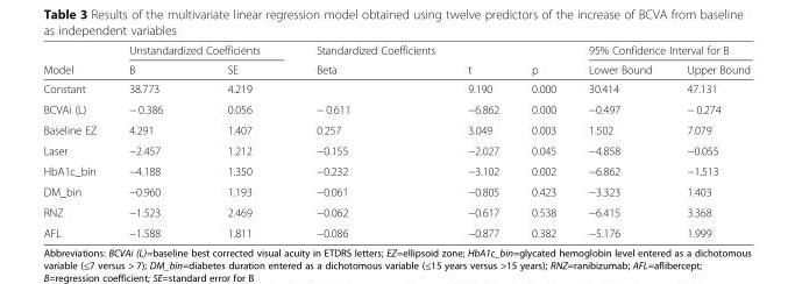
<table><thead><tr><td rowspan="2">Model</td><td colspan="2">Unstandardized Coefficients</td><td rowspan="2">Standardized Coefficients Beta</td><td rowspan="2">t</td><td rowspan="2">p</td><td colspan="2">95% Confidence Interval for B</td></tr><tr><td>B</td><td>SE</td><td>Lower Bound</td><td>Upper Bound</td></tr></thead><tbody><tr><td>Constant</td><td>38.773</td><td>4.219</td><td></td><td>9.190</td><td>0.000</td><td>30.414</td><td>47.131</td></tr><tr><td>BCVAi (L)</td><td>− 0.386</td><td>0.056</td><td>− 0.611</td><td>−6.862</td><td>0.000</td><td>−0.497</td><td>− 0.274</td></tr><tr><td>Baseline EZ</td><td>4.291</td><td>1.407</td><td>0.257</td><td>3.049</td><td>0.003</td><td>1.502</td><td>7.079</td></tr><tr><td>Laser</td><td>−2.457</td><td>1.212</td><td>−0.155</td><td>−2.027</td><td>0.045</td><td>−4.858</td><td>−0.055</td></tr><tr><td>HbA1c_bin</td><td>−4.188</td><td>1.350</td><td>−0.232</td><td>−3.102</td><td>0.002</td><td>−6.862</td><td>−1.513</td></tr><tr><td>DM_bin</td><td>−0.960</td><td>1.193</td><td>−0.061</td><td>−0.805</td><td>0.423</td><td>−3.323</td><td>1.403</td></tr><tr><td>RNZ</td><td>−1.523</td><td>2.469</td><td>−0.062</td><td>−0.617</td><td>0.538</td><td>−6.415</td><td>3.368</td></tr><tr><td>AFL</td><td>−1.588</td><td>1.811</td><td>−0.086</td><td>−0.877</td><td>0.382</td><td>−5.176</td><td>1.999</td></tr></tbody></table>